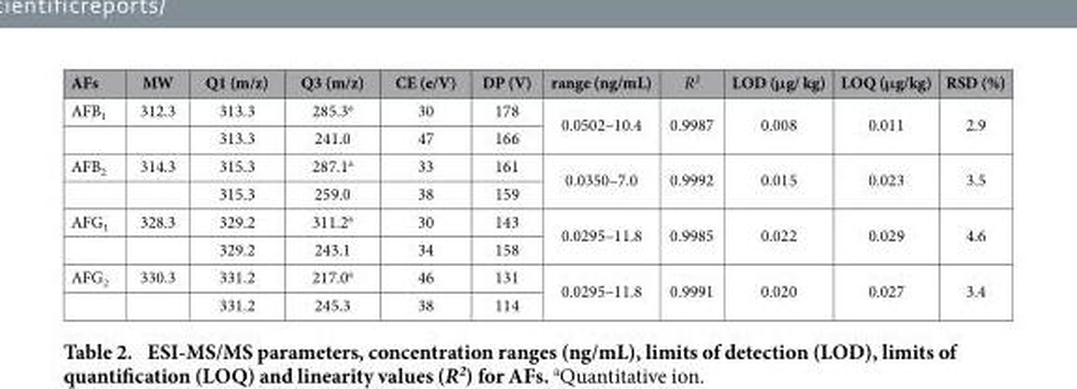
<table><thead><tr><td>AFs</td><td>MW</td><td>Q1 (m/z)</td><td>Q3 (m/z)</td><td>CE (e/V)</td><td>DP (V)</td><td>range (ng/mL)</td><td>R<sup>2</sup></td><td>LOD (μ g/ kg)</td><td>LOQ (μ g/kg)</td><td>RSD (%)</td></tr></thead><tbody><tr><td rowspan="2">AFB<sub>1</sub></td><td>312.3</td><td>313.3</td><td>285.3<sup>a</sup></td><td>30</td><td>178</td><td rowspan="2">0.0502–10.4</td><td rowspan="2">0.9987</td><td rowspan="2">0.008</td><td rowspan="2">0.011</td><td rowspan="2">2.9</td></tr><tr><td></td><td>313.3</td><td>241.0</td><td>47</td><td>166</td></tr><tr><td rowspan="2">AFB<sub>2</sub></td><td>314.3</td><td>315.3</td><td>287.1<sup>a</sup></td><td>33</td><td>161</td><td rowspan="2">0.0350–7.0</td><td rowspan="2">0.9992</td><td rowspan="2">0.015</td><td rowspan="2">0.023</td><td rowspan="2">3.5</td></tr><tr><td></td><td>315.3</td><td>259.0</td><td>38</td><td>159</td></tr><tr><td rowspan="2">AFG<sub>1</sub></td><td>328.3</td><td>329.2</td><td>311.2<sup>a</sup></td><td>30</td><td>143</td><td rowspan="2">0.0295–11.8</td><td rowspan="2">0.9985</td><td rowspan="2">0.022</td><td rowspan="2">0.029</td><td rowspan="2">4.6</td></tr><tr><td></td><td>329.2</td><td>243.1</td><td>34</td><td>158</td></tr><tr><td rowspan="2">AFG<sub>2</sub></td><td>330.3</td><td>331.2</td><td>217.0<sup>a</sup></td><td>46</td><td>131</td><td rowspan="2">0.0295–11.8</td><td rowspan="2">0.9991</td><td rowspan="2">0.020</td><td rowspan="2">0.027</td><td rowspan="2">3.4</td></tr><tr><td></td><td>331.2</td><td>245.3</td><td>38</td><td>114</td></tr></tbody></table>